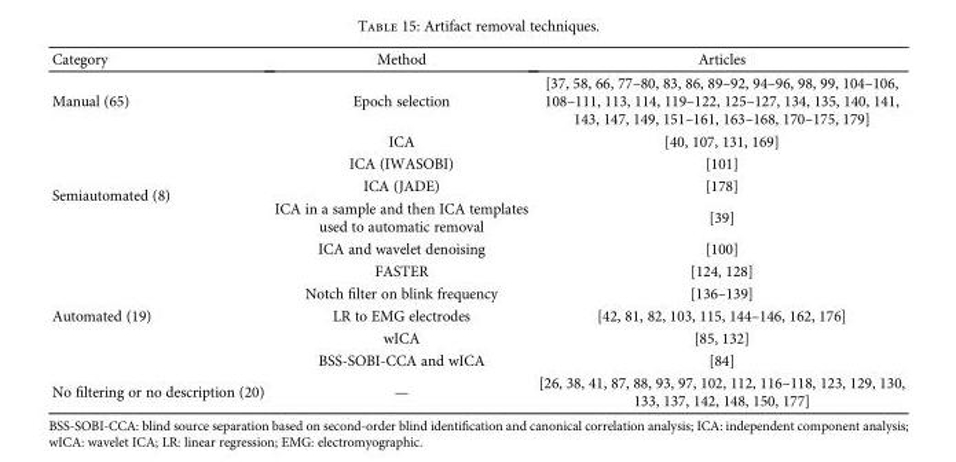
<table><thead><tr><td>Category</td><td>Method</td><td>Articles</td></tr></thead><tbody><tr><td>Manual (65)</td><td>Epoch selection</td><td>[37, 58, 66, 77–80, 83, 86, 89–92, 94–96, 98, 99, 104–106, 108–111, 113, 114, 119–122, 125–127, 134, 135, 140, 141, 143, 147, 149, 151–161, 163–168, 170–175, 179]</td></tr><tr><td rowspan="5">Semiautomated (8)</td><td>ICA</td><td>[40, 107, 131, 169]</td></tr><tr><td>ICA (IWASOBI)</td><td>[101]</td></tr><tr><td>ICA (JADE)</td><td>[178]</td></tr><tr><td>ICA in a sample and then ICA templates used to automatic removal</td><td>[39]</td></tr><tr><td>ICA and wavelet denoising</td><td>[100]</td></tr><tr><td rowspan="5">Automated (19)</td><td>FASTER</td><td>[124, 128]</td></tr><tr><td>Notch filter on blink frequency</td><td>[136–139]</td></tr><tr><td>LR to EMG electrodes</td><td>[42, 81, 82, 103, 115, 144–146, 162, 176]</td></tr><tr><td>wICA</td><td>[85, 132]</td></tr><tr><td>BSS-SOBI-CCA and wICA</td><td>[84]</td></tr><tr><td>No filtering or no description (20)</td><td>—</td><td>[26, 38, 41, 87, 88, 93, 97, 102, 112, 116–118, 123, 129, 130, 133, 137, 142, 148, 150, 177]</td></tr></tbody></table>